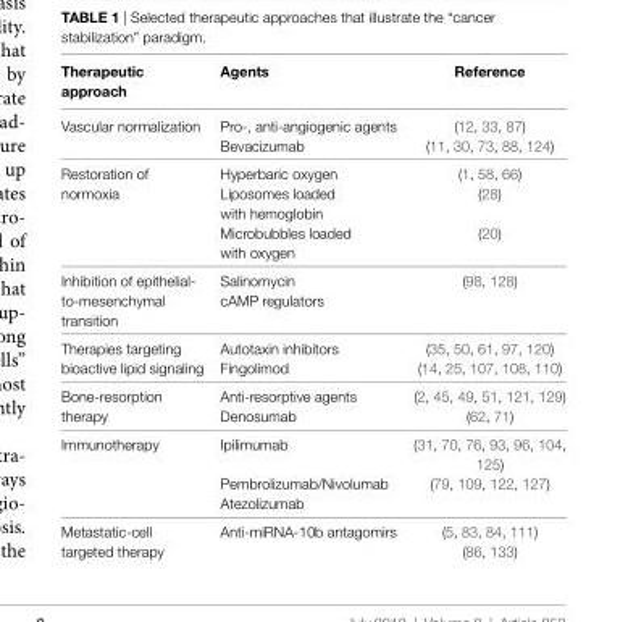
<table><thead><tr><td>Therapeutic approach</td><td>Agents</td><td>Reference</td></tr></thead><tbody><tr><td rowspan="2">Vascular normalization</td><td>Pro-, anti-angiogenic agents</td><td>(12, 33, 87)</td></tr><tr><td>Bevacizumab</td><td>(11, 30, 73, 88, 124)</td></tr><tr><td rowspan="3">Restoration of normoxia</td><td>Hyperbaric oxygen</td><td>(1, 58, 66)</td></tr><tr><td>Liposomes loaded with hemoglobin</td><td>(28)</td></tr><tr><td>Microbubbles loaded with oxygen</td><td>(20)</td></tr><tr><td rowspan="2">Inhibition of epithelial- to-mesenchymal transition</td><td>Salinomycin</td><td rowspan="2">(98, 128)</td></tr><tr><td>cAMP regulators</td></tr><tr><td rowspan="2">Therapies targeting bioactive lipid signaling</td><td>Autotaxin inhibitors</td><td>(35, 50, 61, 97, 120)</td></tr><tr><td>Fingolimod</td><td>(14, 25, 107, 108, 110)</td></tr><tr><td rowspan="2">Bone-resorption therapy</td><td>Anti-resorptive agents</td><td>(2, 45, 49, 51, 121, 129)</td></tr><tr><td>Denosumab</td><td>(62, 71)</td></tr><tr><td rowspan="3">Immunotherapy</td><td>Ipilimumab</td><td>(31, 70, 76, 93, 96, 104, 125)</td></tr><tr><td>Pembrolizumab/Nivolumab</td><td rowspan="2">(79, 109, 122, 127)</td></tr><tr><td>Atezolizumab</td></tr><tr><td rowspan="2">Metastatic-cell targeted therapy</td><td rowspan="2">Anti-miRNA-10b antagomirs</td><td>(5, 83, 84, 111)</td></tr><tr><td>(86, 133)</td></tr></tbody></table>